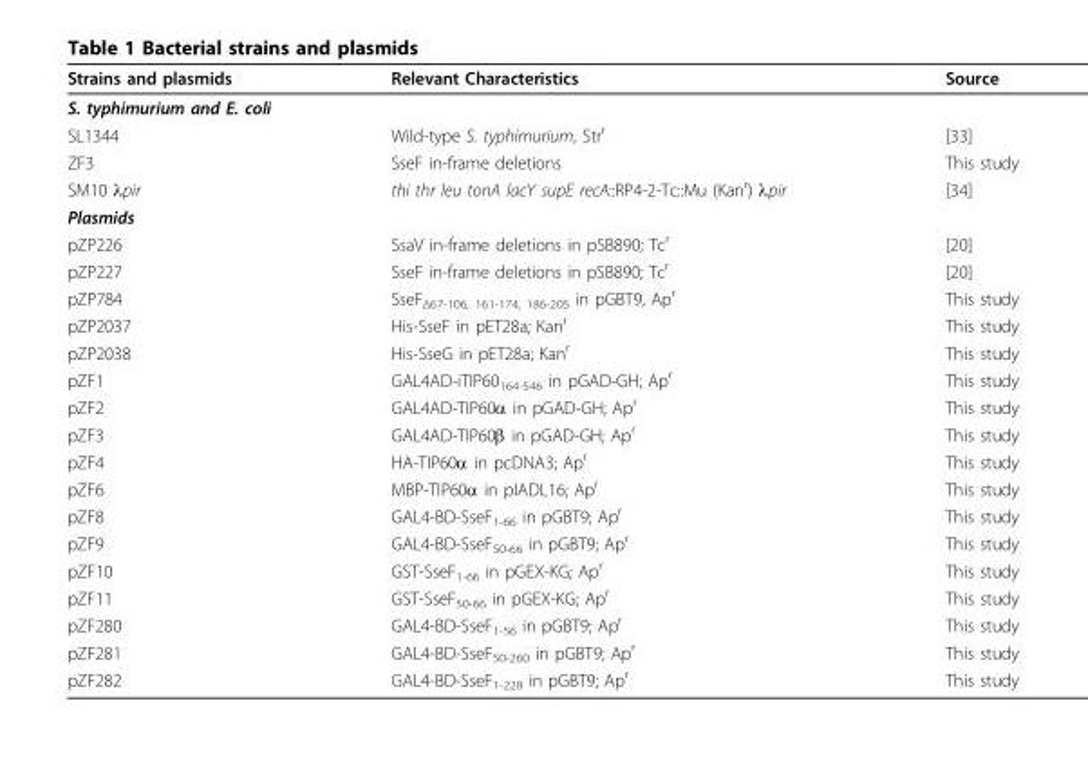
<table><thead><tr><td>Strains and plasmids</td><td>Relevant Characteristics</td><td>Source</td></tr></thead><tbody><tr><td colspan="3">S. typhimurium and E. coli</td></tr><tr><td>SL1344</td><td>Wild-type S. typhimurium, Str<sup>r</sup></td><td>[33]</td></tr><tr><td>ZF3</td><td>SseF in-frame deletions</td><td>This study</td></tr><tr><td>SM10 λpir</td><td>thi thr leu tonA lacY supE recA::RP4-2-Tc::Mu (Kan<sup>r</sup>) λpir</td><td>[34]</td></tr><tr><td colspan="3">Plasmids</td></tr><tr><td>pZP226</td><td>SsaV in-frame deletions in pSB890; Tc<sup>r</sup></td><td>[20]</td></tr><tr><td>pZP227</td><td>SseF in-frame deletions in pSB890; Tc<sup>r</sup></td><td>[20]</td></tr><tr><td>pZP784</td><td>SseF<sub>Δ67-106, 161-174, 186-205</sub> in pGBT9, Ap<sup>r</sup></td><td>This study</td></tr><tr><td>pZP2037</td><td>His-SseF in pET28a; Kan<sup>r</sup></td><td>This study</td></tr><tr><td>pZP2038</td><td>His-SseG in pET28a; Kan<sup>r</sup></td><td>This study</td></tr><tr><td>pZF1</td><td>GAL4AD-iTIP60<sub>164-546</sub> in pGAD-GH; Ap<sup>r</sup></td><td>This study</td></tr><tr><td>pZF2</td><td>GAL4AD-TIP60α in pGAD-GH; Ap<sup>r</sup></td><td>This study</td></tr><tr><td>pZF3</td><td>GAL4AD-TIP60β in pGAD-GH; Ap<sup>r</sup></td><td>This study</td></tr><tr><td>pZF4</td><td>HA-TIP60α in pcDNA3; Ap<sup>r</sup></td><td>This study</td></tr><tr><td>pZF6</td><td>MBP-TIP60α in pIADL16; Ap<sup>r</sup></td><td>This study</td></tr><tr><td>pZF8</td><td>GAL4-BD-SseF<sub>1-66</sub> in pGBT9; Ap<sup>r</sup></td><td>This study</td></tr><tr><td>pZF9</td><td>GAL4-BD-SseF<sub>50-66</sub> in pGBT9; Ap<sup>r</sup></td><td>This study</td></tr><tr><td>pZF10</td><td>GST-SseF<sub>1-66</sub> in pGEX-KG; Ap<sup>r</sup></td><td>This study</td></tr><tr><td>pZF11</td><td>GST-SseF<sub>50-66</sub> in pGEX-KG; Ap<sup>r</sup></td><td>This study</td></tr><tr><td>pZF280</td><td>GAL4-BD-SseF<sub>1-56</sub> in pGBT9; Ap<sup>r</sup></td><td>This study</td></tr><tr><td>pZF281</td><td>GAL4-BD-SseF<sub>50-260</sub> in pGBT9; Ap<sup>r</sup></td><td>This study</td></tr><tr><td>pZF282</td><td>GAL4-BD-SseF<sub>1-228</sub> in pGBT9; Ap<sup>r</sup></td><td>This study</td></tr></tbody></table>